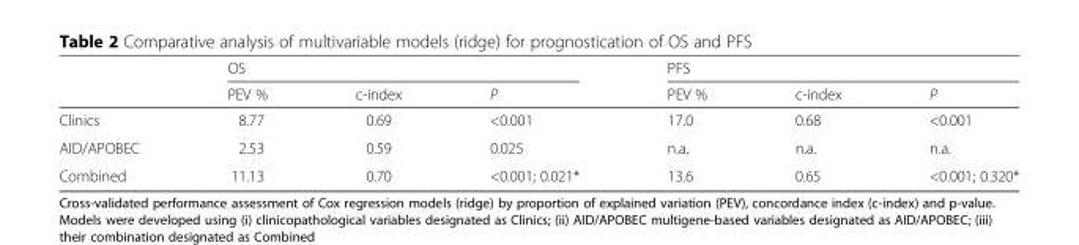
<table><thead><tr><td rowspan="2"></td><td colspan="3">OS</td><td colspan="3">PFS</td></tr><tr><td>PEV %</td><td>c-index</td><td>P</td><td>PEV %</td><td>c-index</td><td>P</td></tr></thead><tbody><tr><td>Clinics</td><td>8.77</td><td>0.69</td><td>&lt;0.001</td><td>17.0</td><td>0.68</td><td>&lt;0.001</td></tr><tr><td>AID/APOBEC</td><td>2.53</td><td>0.59</td><td>0.025</td><td>n.a.</td><td>n.a.</td><td>n.a.</td></tr><tr><td>Combined</td><td>11.13</td><td>0.70</td><td>&lt;0.001; 0.021*</td><td>13.6</td><td>0.65</td><td>&lt;0.001; 0.320*</td></tr></tbody></table>